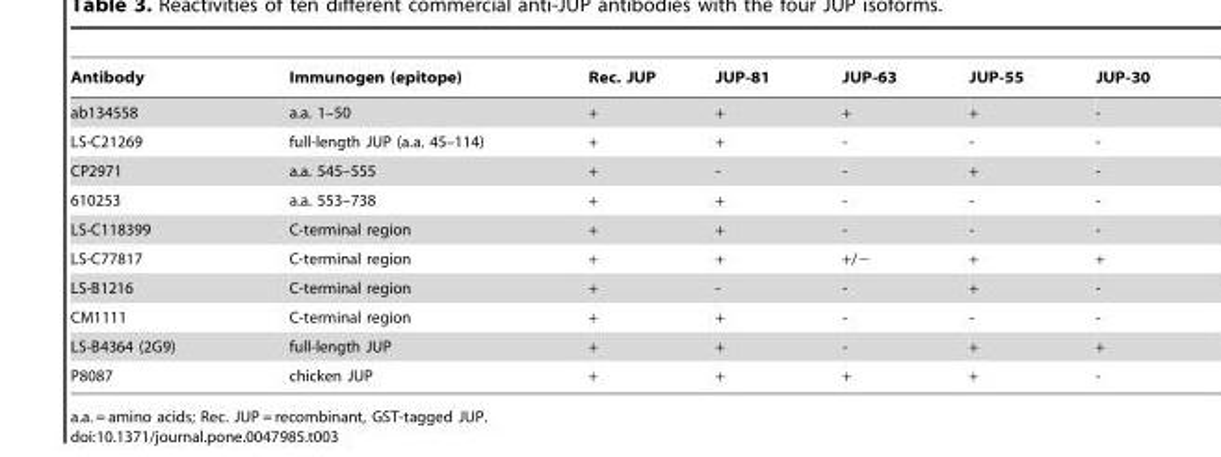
<table><thead><tr><td>Antibody</td><td>Immunogen (epitope)</td><td>Rec. JUP</td><td>JUP-81</td><td>JUP-63</td><td>JUP-55</td><td>JUP-30</td></tr></thead><tbody><tr><td>ab134558</td><td>a.a. 1–50</td><td>+</td><td>+</td><td>+</td><td>+</td><td>-</td></tr><tr><td>LS-C21269</td><td>full-length JUP (a.a. 45–114)</td><td>+</td><td>+</td><td>-</td><td>-</td><td>-</td></tr><tr><td>CP2971</td><td>a.a. 545–555</td><td>+</td><td>-</td><td>-</td><td>+</td><td>-</td></tr><tr><td>610253</td><td>a.a. 553–738</td><td>+</td><td>+</td><td>-</td><td>-</td><td>-</td></tr><tr><td>LS-C118399</td><td>C-terminal region</td><td>+</td><td>+</td><td>-</td><td>-</td><td>-</td></tr><tr><td>LS-C77817</td><td>C-terminal region</td><td>+</td><td>+</td><td>+/−</td><td>+</td><td>+</td></tr><tr><td>LS-B1216</td><td>C-terminal region</td><td>+</td><td>-</td><td>-</td><td>+</td><td>-</td></tr><tr><td>CM1111</td><td>C-terminal region</td><td>+</td><td>+</td><td>-</td><td>-</td><td>-</td></tr><tr><td>LS-B4364 (2G9)</td><td>full-length JUP</td><td>+</td><td>+</td><td>-</td><td>+</td><td>+</td></tr><tr><td>P8087</td><td>chicken JUP</td><td>+</td><td>+</td><td>+</td><td>+</td><td>-</td></tr></tbody></table>